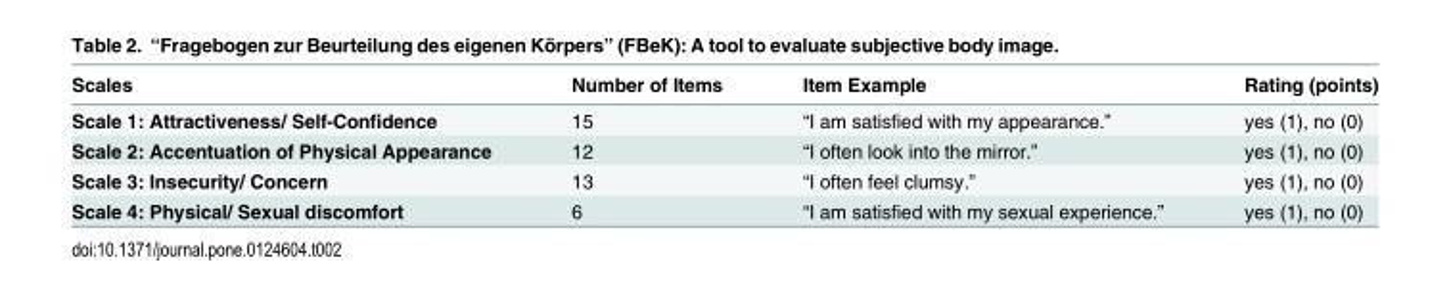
<table><thead><tr><td>Scales</td><td>Number of Items</td><td>Item Example</td><td>Rating (points)</td></tr></thead><tbody><tr><td>Scale 1: Attractiveness/ Self-Confidence</td><td>15</td><td>“I am satisfied with my appearance.”</td><td>yes (1), no (0)</td></tr><tr><td>Scale 2: Accentuation of Physical Appearance</td><td>12</td><td>“I often look into the mirror.”</td><td>yes (1), no (0)</td></tr><tr><td>Scale 3: Insecurity/ Concern</td><td>13</td><td>“I often feel clumsy.”</td><td>yes (1), no (0)</td></tr><tr><td>Scale 4: Physical/ Sexual discomfort</td><td>6</td><td>“I am satisfied with my sexual experience.”</td><td>yes (1), no (0)</td></tr></tbody></table>